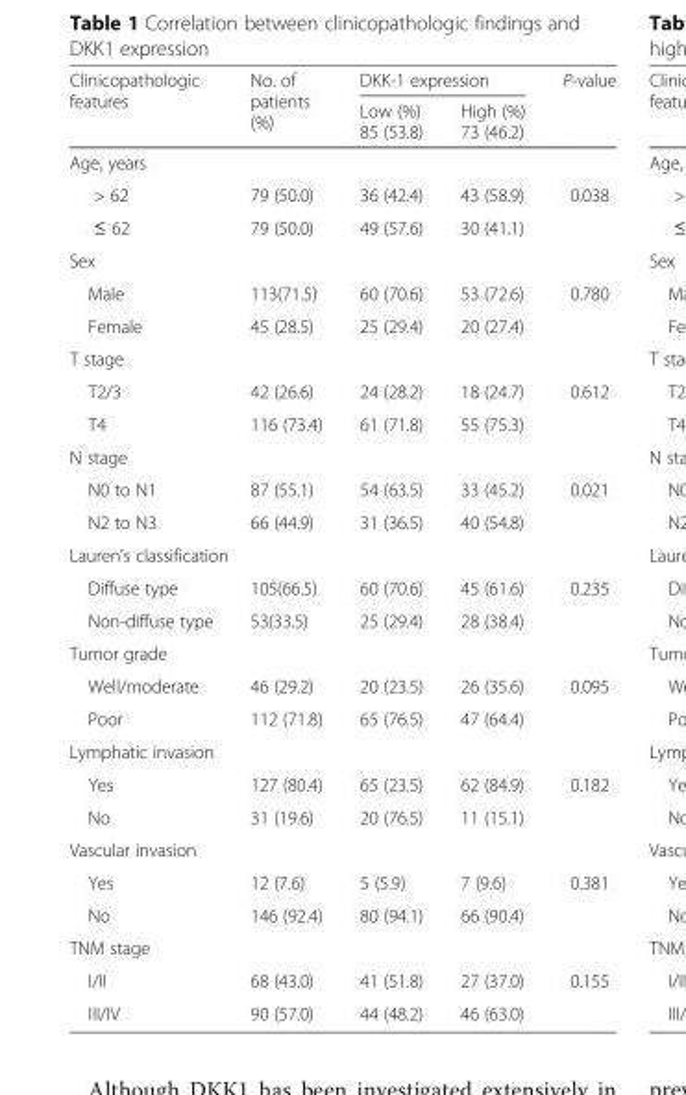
<table><thead><tr><td rowspan="2">Clinicopathologic features</td><td rowspan="2">No. of patients (%)</td><td colspan="2">DKK-1 expression</td><td rowspan="2">P-value</td></tr><tr><td>Low (%) 85 (53.8)</td><td>High (%) 73 (46.2)</td></tr></thead><tbody><tr><td colspan="5">Age, years</td></tr><tr><td>&gt; 62</td><td>79 (50.0)</td><td>36 (42.4)</td><td>43 (58.9)</td><td>0.038</td></tr><tr><td>≤ 62</td><td>79 (50.0)</td><td>49 (57.6)</td><td>30 (41.1)</td><td></td></tr><tr><td colspan="5">Sex</td></tr><tr><td>Male</td><td>113(71.5)</td><td>60 (70.6)</td><td>53 (72.6)</td><td>0.780</td></tr><tr><td>Female</td><td>45 (28.5)</td><td>25 (29.4)</td><td>20 (27.4)</td><td></td></tr><tr><td colspan="5">T stage</td></tr><tr><td>T2/3</td><td>42 (26.6)</td><td>24 (28.2)</td><td>18 (24.7)</td><td>0.612</td></tr><tr><td>T4</td><td>116 (73.4)</td><td>61 (71.8)</td><td>55 (75.3)</td><td></td></tr><tr><td colspan="5">N stage</td></tr><tr><td>N0 to N1</td><td>87 (55.1)</td><td>54 (63.5)</td><td>33 (45.2)</td><td>0.021</td></tr><tr><td>N2 to N3</td><td>66 (44.9)</td><td>31 (36.5)</td><td>40 (54.8)</td><td></td></tr><tr><td colspan="5">Lauren’s classification</td></tr><tr><td>Diffuse type</td><td>105(66.5)</td><td>60 (70.6)</td><td>45 (61.6)</td><td>0.235</td></tr><tr><td>Non-diffuse type</td><td>53(33.5)</td><td>25 (29.4)</td><td>28 (38.4)</td><td></td></tr><tr><td colspan="5">Tumor grade</td></tr><tr><td>Well/moderate</td><td>46 (29.2)</td><td>20 (23.5)</td><td>26 (35.6)</td><td>0.095</td></tr><tr><td>Poor</td><td>112 (71.8)</td><td>65 (76.5)</td><td>47 (64.4)</td><td></td></tr><tr><td colspan="5">Lymphatic invasion</td></tr><tr><td>Yes</td><td>127 (80.4)</td><td>65 (23.5)</td><td>62 (84.9)</td><td>0.182</td></tr><tr><td>No</td><td>31 (19.6)</td><td>20 (76.5)</td><td>11 (15.1)</td><td></td></tr><tr><td colspan="5">Vascular invasion</td></tr><tr><td>Yes</td><td>12 (7.6)</td><td>5 (5.9)</td><td>7 (9.6)</td><td>0.381</td></tr><tr><td>No</td><td>146 (92.4)</td><td>80 (94.1)</td><td>66 (90.4)</td><td></td></tr><tr><td colspan="5">TNM stage</td></tr><tr><td>I/II</td><td>68 (43.0)</td><td>41 (51.8)</td><td>27 (37.0)</td><td>0.155</td></tr><tr><td>III/IV</td><td>90 (57.0)</td><td>44 (48.2)</td><td>46 (63.0)</td><td></td></tr></tbody></table>